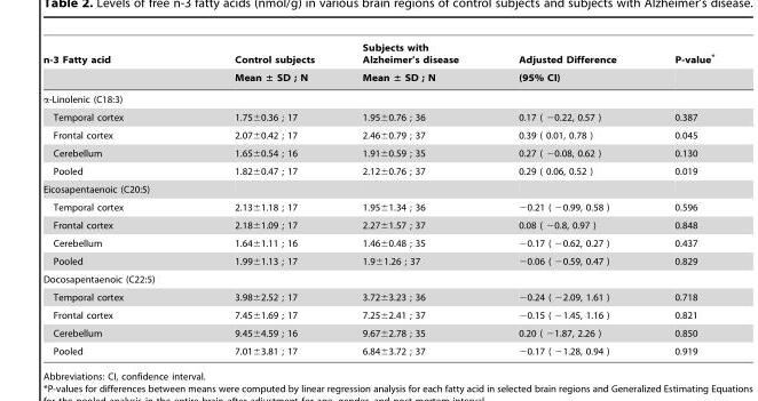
<table><thead><tr><td rowspan="2">n-3 Fatty acid</td><td rowspan="2">Control subjects Mean ± SD ; N</td><td rowspan="2">Subjects with Alzheimer’s disease Mean ± SD ; N</td><td rowspan="2">Adjusted Difference (95% CI)</td><td rowspan="2">P-value*</td></tr><tr></tr></thead><tbody><tr><td colspan="5">α-Linolenic (C18:3)</td></tr><tr><td>Temporal cortex</td><td>1.75±0.36 ; 17</td><td>1.95±0.76 ; 36</td><td>0.17 ( −0.22, 0.57 )</td><td>0.387</td></tr><tr><td>Frontal cortex</td><td>2.07±0.42 ; 17</td><td>2.46±0.79 ; 37</td><td>0.39 ( 0.01, 0.78 )</td><td>0.045</td></tr><tr><td>Cerebellum</td><td>1.65±0.54 ; 16</td><td>1.91±0.59 ; 35</td><td>0.27 ( −0.08, 0.62 )</td><td>0.130</td></tr><tr><td>Pooled</td><td>1.82±0.47 ; 17</td><td>2.12±0.76 ; 37</td><td>0.29 ( 0.06, 0.52 )</td><td>0.019</td></tr><tr><td colspan="5">Eicosapentaenoic (C20:5)</td></tr><tr><td>Temporal cortex</td><td>2.13±1.18 ; 17</td><td>1.95±1.34 ; 36</td><td>−0.21 ( −0.99, 0.58 )</td><td>0.596</td></tr><tr><td>Frontal cortex</td><td>2.18±1.09 ; 17</td><td>2.27±1.57 ; 37</td><td>0.08 ( −0.8, 0.97 )</td><td>0.848</td></tr><tr><td>Cerebellum</td><td>1.64±1.11 ; 16</td><td>1.46±0.48 ; 35</td><td>−0.17 ( −0.62, 0.27 )</td><td>0.437</td></tr><tr><td>Pooled</td><td>1.99±1.13 ; 17</td><td>1.9±1.26 ; 37</td><td>−0.06 ( −0.59, 0.47 )</td><td>0.829</td></tr><tr><td colspan="5">Docosapentaenoic (C22:5)</td></tr><tr><td>Temporal cortex</td><td>3.98±2.52 ; 17</td><td>3.72±3.23 ; 36</td><td>−0.24 ( −2.09, 1.61 )</td><td>0.718</td></tr><tr><td>Frontal cortex</td><td>7.45±1.69 ; 17</td><td>7.25±2.41 ; 37</td><td>−0.15 ( −1.45, 1.16 )</td><td>0.821</td></tr><tr><td>Cerebellum</td><td>9.45±4.59 ; 16</td><td>9.67±2.78 ; 35</td><td>0.20 ( −1.87, 2.26 )</td><td>0.850</td></tr><tr><td>Pooled</td><td>7.01±3.81 ; 17</td><td>6.84±3.72 ; 37</td><td>−0.17 ( −1.28, 0.94 )</td><td>0.919</td></tr></tbody></table>